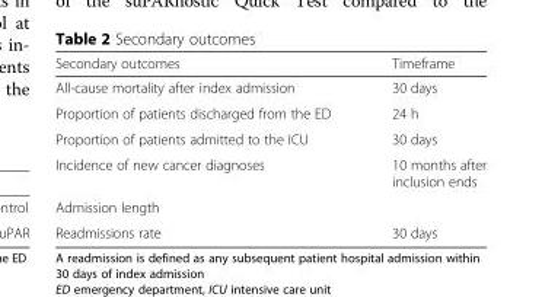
<table><thead><tr><td>Secondary outcomes</td><td>Timeframe</td></tr></thead><tbody><tr><td>All-cause mortality after index admission</td><td>30 days</td></tr><tr><td>Proportion of patients discharged from the ED</td><td>24 h</td></tr><tr><td>Proportion of patients admitted to the ICU</td><td>30 days</td></tr><tr><td>Incidence of new cancer diagnoses</td><td>10 months after inclusion ends</td></tr><tr><td colspan="2">Admission length</td></tr><tr><td>Readmissions rate</td><td>30 days</td></tr></tbody></table>